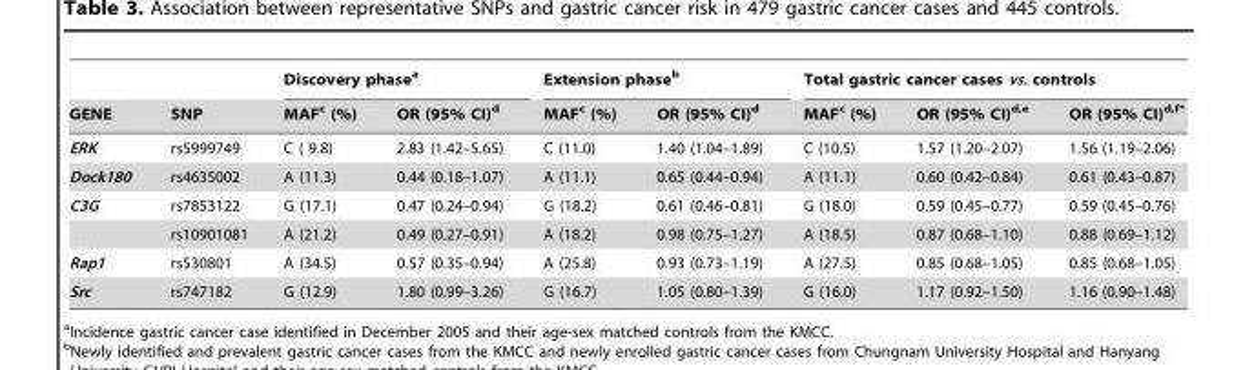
<table><thead><tr><td rowspan="2">GENE</td><td rowspan="2">SNP</td><td colspan="2">Discovery phase<sup>a</sup></td><td colspan="2">Extension phase<sup>b</sup></td><td colspan="3">Total gastric cancer cases vs. controls</td></tr><tr><td>MAF<sup>c</sup> (%)</td><td>OR (95% CI)<sup>d</sup></td><td>MAF<sup>c</sup> (%)</td><td>OR (95% CI)<sup>d</sup></td><td>MAF<sup>c</sup> (%)</td><td>OR (95% CI)<sup>d,</sup>e</td><td>OR (95% CI)<sup>d,</sup>f*</td></tr></thead><tbody><tr><td>ERK</td><td>rs5999749</td><td>C ( 9.8)</td><td>2.83 (1.42–5.65)</td><td>C (11.0)</td><td>1.40 (1.04–1.89)</td><td>C (10.5)</td><td>1.57 (1.20–2.07)</td><td>1.56 (1.19–2.06)</td></tr><tr><td>Dock180</td><td>rs4635002</td><td>A (11.3)</td><td>0.44 (0.18–1.07)</td><td>A (11.1)</td><td>0.65 (0.44–0.94)</td><td>A (11.1)</td><td>0.60 (0.42–0.84)</td><td>0.61 (0.43–0.87)</td></tr><tr><td rowspan="2">C3G</td><td>rs7853122</td><td>G (17.1)</td><td>0.47 (0.24–0.94)</td><td>G (18.2)</td><td>0.61 (0.46–0.81)</td><td>G (18.0)</td><td>0.59 (0.45–0.77)</td><td>0.59 (0.45–0.76)</td></tr><tr><td>rs10901081</td><td>A (21.2)</td><td>0.49 (0.27–0.91)</td><td>A (18.2)</td><td>0.98 (0.75–1.27)</td><td>A (18.5)</td><td>0.87 (0.68–1.10)</td><td>0.88 (0.69–1.12)</td></tr><tr><td>Rap1</td><td>rs530801</td><td>A (34.5)</td><td>0.57 (0.35–0.94)</td><td>A (25.8)</td><td>0.93 (0.73–1.19)</td><td>A (27.5)</td><td>0.85 (0.68–1.05)</td><td>0.85 (0.68–1.05)</td></tr><tr><td>Src</td><td>rs747182</td><td>G (12.9)</td><td>1.80 (0.99–3.26)</td><td>G (16.7)</td><td>1.05 (0.80–1.39)</td><td>G (16.0)</td><td>1.17 (0.92–1.50)</td><td>1.16 (0.90–1.48)</td></tr></tbody></table>